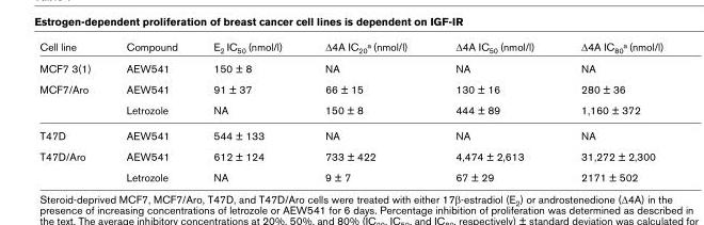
<table><thead><tr><td>Cell line</td><td>Compound</td><td>E<sub>2</sub> IC<sub>50</sub> (nmol/l)</td><td>Δ4A IC<sub>20</sub><sup>a</sup> (nmol/l)</td><td>Δ4A IC<sub>50</sub> (nmol/l)</td><td>Δ4A IC<sub>80</sub><sup>a</sup> (nmol/l)</td></tr></thead><tbody><tr><td>MCF7 3(1)</td><td>AEW541</td><td>150 ± 8</td><td>NA</td><td>NA</td><td>NA</td></tr><tr><td rowspan="2">MCF7/Aro</td><td>AEW541</td><td>91 ± 37</td><td>66 ± 15</td><td>130 ± 16</td><td>280 ± 36</td></tr><tr><td>Letrozole</td><td>NA</td><td>150 ± 8</td><td>444 ± 89</td><td>1,160 ± 372</td></tr><tr><td>T47D</td><td>AEW541</td><td>544 ± 133</td><td>NA</td><td>NA</td><td>NA</td></tr><tr><td rowspan="2">T47D/Aro</td><td>AEW541</td><td>612 ± 124</td><td>733 ± 422</td><td>4,474 ± 2,613</td><td>31,272 ± 2,300</td></tr><tr><td>Letrozole</td><td>NA</td><td>9 ± 7</td><td>67 ± 29</td><td>2171 ± 502</td></tr></tbody></table>